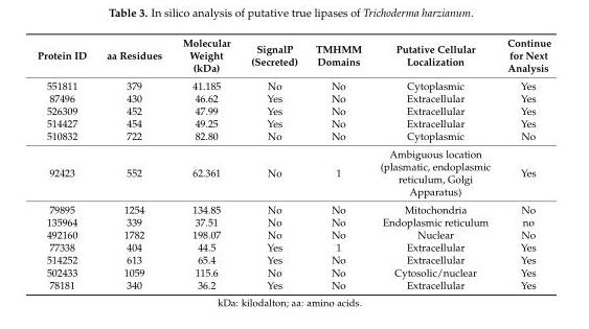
<table><thead><tr><td>Protein ID</td><td>aa Residues</td><td>Molecular Weight (kDa)</td><td>SignalP (Secreted)</td><td>TMHMM Domains</td><td>Putative Cellular Localization</td><td>Continue for Next Analysis</td></tr></thead><tbody><tr><td>551811</td><td>379</td><td>41.185</td><td>No</td><td>No</td><td>Cytoplasmic</td><td>Yes</td></tr><tr><td>87496</td><td>430</td><td>46.62</td><td>Yes</td><td>No</td><td>Extracellular</td><td>Yes</td></tr><tr><td>526309</td><td>452</td><td>47.99</td><td>Yes</td><td>No</td><td>Extracellular</td><td>Yes</td></tr><tr><td>514427</td><td>454</td><td>49.25</td><td>Yes</td><td>No</td><td>Extracellular</td><td>Yes</td></tr><tr><td>510832</td><td>722</td><td>82.80</td><td>No</td><td>No</td><td>Cytoplasmic</td><td>No</td></tr><tr><td>92423</td><td>552</td><td>62.361</td><td>No</td><td>1</td><td>Ambiguous location (plasmatic, endoplasmic reticulum, Golgi Apparatus)</td><td>Yes</td></tr><tr><td>79895</td><td>1254</td><td>134.85</td><td>No</td><td>No</td><td>Mitochondria</td><td>No</td></tr><tr><td>135964</td><td>339</td><td>37.51</td><td>No</td><td>No</td><td>Endoplasmic reticulum</td><td>no</td></tr><tr><td>492160</td><td>1782</td><td>198.07</td><td>No</td><td>No</td><td>Nuclear</td><td>No</td></tr><tr><td>77338</td><td>404</td><td>44.5</td><td>Yes</td><td>1</td><td>Extracellular</td><td>Yes</td></tr><tr><td>514252</td><td>613</td><td>65.4</td><td>Yes</td><td>No</td><td>Extracellular</td><td>Yes</td></tr><tr><td>502433</td><td>1059</td><td>115.6</td><td>No</td><td>No</td><td>Cytosolic/nuclear</td><td>Yes</td></tr><tr><td>78181</td><td>340</td><td>36.2</td><td>Yes</td><td>No</td><td>Extracellular</td><td>Yes</td></tr></tbody></table>